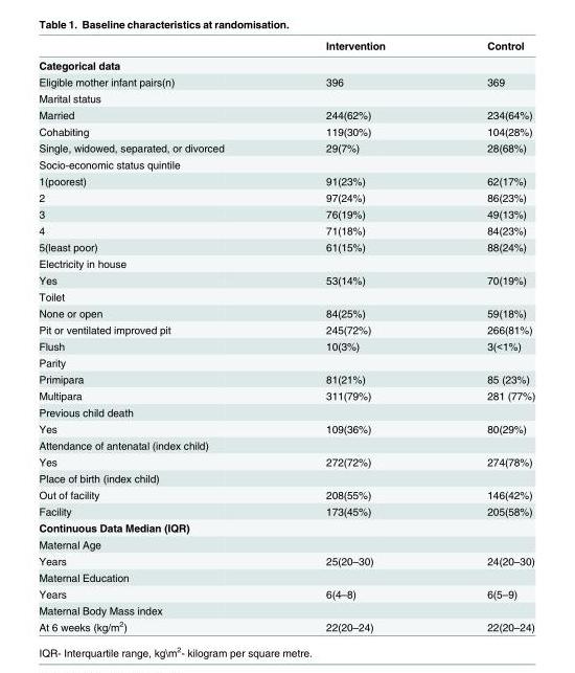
<table><thead><tr><td></td><td>Intervention</td><td>Control</td></tr></thead><tbody><tr><td colspan="3">Categorical data</td></tr><tr><td>Eligible mother infant pairs(n)</td><td>396</td><td>369</td></tr><tr><td colspan="3">Marital status</td></tr><tr><td>Married</td><td>244(62%)</td><td>234(64%)</td></tr><tr><td>Cohabiting</td><td>119(30%)</td><td>104(28%)</td></tr><tr><td>Single, widowed, separated, or divorced</td><td>29(7%)</td><td>28(68%)</td></tr><tr><td colspan="3">Socio-economic status quintile</td></tr><tr><td>1(poorest)</td><td>91(23%)</td><td>62(17%)</td></tr><tr><td>2</td><td>97(24%)</td><td>86(23%)</td></tr><tr><td>3</td><td>76(19%)</td><td>49(13%)</td></tr><tr><td>4</td><td>71(18%)</td><td>84(23%)</td></tr><tr><td>5(least poor)</td><td>61(15%)</td><td>88(24%)</td></tr><tr><td colspan="3">Electricity in house</td></tr><tr><td>Yes</td><td>53(14%)</td><td>70(19%)</td></tr><tr><td colspan="3">Toilet</td></tr><tr><td>None or open</td><td>84(25%)</td><td>59(18%)</td></tr><tr><td>Pit or ventilated improved pit</td><td>245(72%)</td><td>266(81%)</td></tr><tr><td>Flush</td><td>10(3%)</td><td>3(&lt;1%)</td></tr><tr><td colspan="3">Parity</td></tr><tr><td>Primipara</td><td>81(21%)</td><td>85 (23%)</td></tr><tr><td>Multipara</td><td>311(79%)</td><td>281 (77%)</td></tr><tr><td colspan="3">Previous child death</td></tr><tr><td>Yes</td><td>109(36%)</td><td>80(29%)</td></tr><tr><td colspan="3">Attendance of antenatal (index child)</td></tr><tr><td>Yes</td><td>272(72%)</td><td>274(78%)</td></tr><tr><td colspan="3">Place of birth (index child)</td></tr><tr><td>Out of facility</td><td>208(55%)</td><td>146(42%)</td></tr><tr><td>Facility</td><td>173(45%)</td><td>205(58%)</td></tr><tr><td colspan="3">Continuous Data Median (IQR)</td></tr><tr><td colspan="3">Maternal Age</td></tr><tr><td>Years</td><td>25(20–30)</td><td>24(20–30)</td></tr><tr><td colspan="3">Maternal Education</td></tr><tr><td>Years</td><td>6(4–8)</td><td>6(5–9)</td></tr><tr><td colspan="3">Maternal Body Mass index</td></tr><tr><td>At 6 weeks (kg/m<sup>2</sup>)</td><td>22(20–24)</td><td>22(20–24)</td></tr></tbody></table>